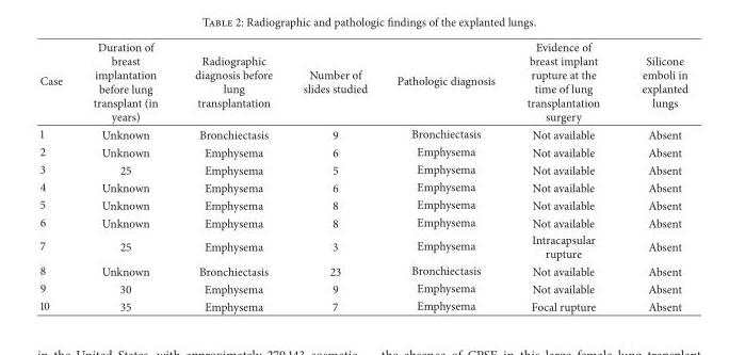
<table><thead><tr><td>Case</td><td>Duration of breast implantation before lung transplant (in years)</td><td>Radiographic diagnosis before lung transplantation</td><td>Number of slides studied</td><td>Pathologic diagnosis</td><td>Evidence of breast implant rupture at the time of lung transplantation surgery</td><td>Silicone emboli in explanted lungs</td></tr></thead><tbody><tr><td>1</td><td>Unknown</td><td>Bronchiectasis</td><td>9</td><td>Bronchiectasis</td><td>Not available</td><td>Absent</td></tr><tr><td>2</td><td>Unknown</td><td>Emphysema</td><td>6</td><td>Emphysema</td><td>Not available</td><td>Absent</td></tr><tr><td>3</td><td>25</td><td>Emphysema</td><td>5</td><td>Emphysema</td><td>Not available</td><td>Absent</td></tr><tr><td>4</td><td>Unknown</td><td>Emphysema</td><td>6</td><td>Emphysema</td><td>Not available</td><td>Absent</td></tr><tr><td>5</td><td>Unknown</td><td>Emphysema</td><td>8</td><td>Emphysema</td><td>Not available</td><td>Absent</td></tr><tr><td>6</td><td>Unknown</td><td>Emphysema</td><td>8</td><td>Emphysema</td><td>Not available</td><td>Absent</td></tr><tr><td>7</td><td>25</td><td>Emphysema</td><td>3</td><td>Emphysema</td><td>Intracapsular rupture</td><td>Absent</td></tr><tr><td>8</td><td>Unknown</td><td>Bronchiectasis</td><td>23</td><td>Bronchiectasis</td><td>Not available</td><td>Absent</td></tr><tr><td>9</td><td>30</td><td>Emphysema</td><td>9</td><td>Emphysema</td><td>Not available</td><td>Absent</td></tr><tr><td>10</td><td>35</td><td>Emphysema</td><td>7</td><td>Emphysema</td><td>Focal rupture</td><td>Absent</td></tr></tbody></table>